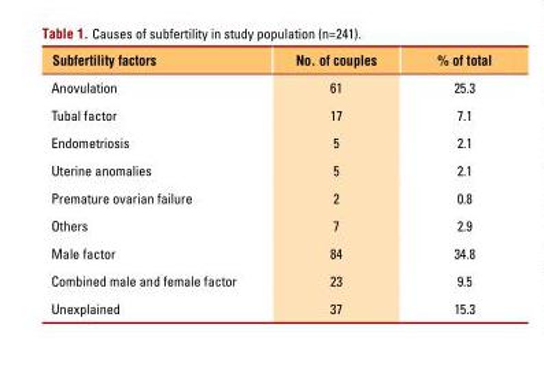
<table><thead><tr><td>Subfertility factors</td><td>No. of couples</td><td>% of total</td></tr></thead><tbody><tr><td>Anovulation</td><td>61</td><td>25.3</td></tr><tr><td>Tubal factor</td><td>17</td><td>7.1</td></tr><tr><td>Endometriosis</td><td>5</td><td>2.1</td></tr><tr><td>Uterine anomalies</td><td>5</td><td>2.1</td></tr><tr><td>Premature ovarian failure</td><td>2</td><td>0.8</td></tr><tr><td>Others</td><td>7</td><td>2.9</td></tr><tr><td>Male factor</td><td>84</td><td>34.8</td></tr><tr><td>Combined male and female factor</td><td>23</td><td>9.5</td></tr><tr><td>Unexplained</td><td>37</td><td>15.3</td></tr></tbody></table>